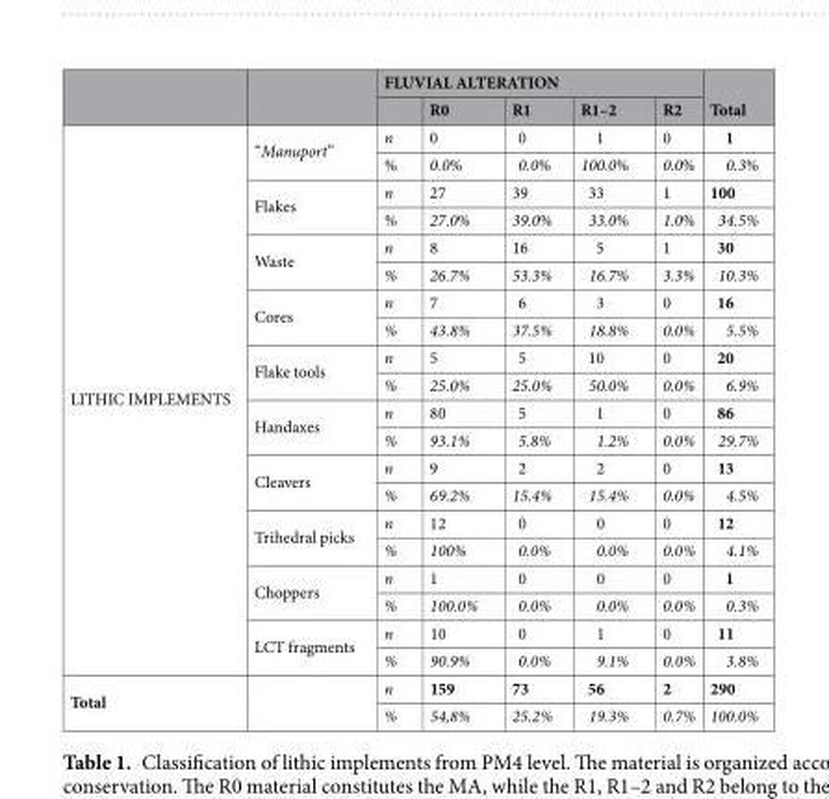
<table><thead><tr><td rowspan="2"></td><td rowspan="2"></td><td colspan="5">FLUVIAL ALTERATION</td><td rowspan="2">Total</td></tr><tr><td></td><td>R0</td><td>R1</td><td>R1–2</td><td>R2</td></tr></thead><tbody><tr><td rowspan="20">LITHIC IMPLEMENTS</td><td rowspan="2">“Manuport”</td><td>n</td><td>0</td><td>0</td><td>1</td><td>0</td><td>1</td></tr><tr><td>%</td><td>0.0%</td><td>0.0%</td><td>100.0%</td><td>0.0%</td><td>0.3%</td></tr><tr><td rowspan="2">Flakes</td><td>n</td><td>27</td><td>39</td><td>33</td><td>1</td><td>100</td></tr><tr><td>%</td><td>27.0%</td><td>39.0%</td><td>33.0%</td><td>1.0%</td><td>34.5%</td></tr><tr><td rowspan="2">Waste</td><td>n</td><td>8</td><td>16</td><td>5</td><td>1</td><td>30</td></tr><tr><td>%</td><td>26.7%</td><td>53.3%</td><td>16.7%</td><td>3.3%</td><td>10.3%</td></tr><tr><td rowspan="2">Cores</td><td>n</td><td>7</td><td>6</td><td>3</td><td>0</td><td>16</td></tr><tr><td>%</td><td>43.8%</td><td>37.5%</td><td>18.8%</td><td>0.0%</td><td>5.5%</td></tr><tr><td rowspan="2">Flake tools</td><td>n</td><td>5</td><td>5</td><td>10</td><td>0</td><td>20</td></tr><tr><td>%</td><td>25.0%</td><td>25.0%</td><td>50.0%</td><td>0.0%</td><td>6.9%</td></tr><tr><td rowspan="2">Handaxes</td><td>n</td><td>80</td><td>5</td><td>1</td><td>0</td><td>86</td></tr><tr><td>%</td><td>93.1%</td><td>5.8%</td><td>1.2%</td><td>0.0%</td><td>29.7%</td></tr><tr><td rowspan="2">Cleavers</td><td>n</td><td>9</td><td>2</td><td>2</td><td>0</td><td>13</td></tr><tr><td>%</td><td>69.2%</td><td>15.4%</td><td>15.4%</td><td>0.0%</td><td>4.5%</td></tr><tr><td rowspan="2">Trihedral picks</td><td>n</td><td>12</td><td>0</td><td>0</td><td>0</td><td>12</td></tr><tr><td>%</td><td>100%</td><td>0.0%</td><td>0.0%</td><td>0.0%</td><td>4.1%</td></tr><tr><td rowspan="2">Choppers</td><td>n</td><td>1</td><td>0</td><td>0</td><td>0</td><td>1</td></tr><tr><td>%</td><td>100.0%</td><td>0.0%</td><td>0.0%</td><td>0.0%</td><td>0.3%</td></tr><tr><td rowspan="2">LCT fragments</td><td>n</td><td>10</td><td>0</td><td>1</td><td>0</td><td>11</td></tr><tr><td>%</td><td>90.9%</td><td>0.0%</td><td>9.1%</td><td>0.0%</td><td>3.8%</td></tr><tr><td rowspan="2">Total</td><td rowspan="2"></td><td>n</td><td>159</td><td>73</td><td>56</td><td>2</td><td>290</td></tr><tr><td>%</td><td>54,8%</td><td>25.2%</td><td>19.3%</td><td>0.7%</td><td>100.0%</td></tr></tbody></table>